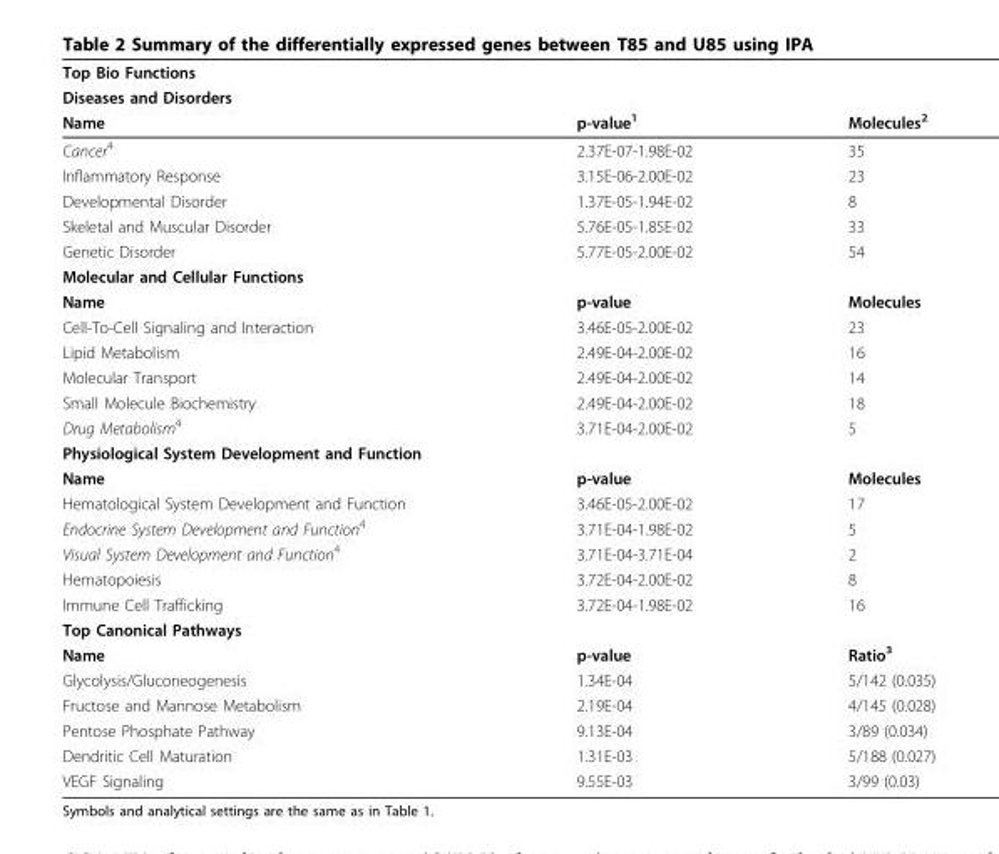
<table><thead><tr><td rowspan="3">Top Bio Functions Diseases and Disorders Name</td><td rowspan="3">p-value<sup>1</sup></td><td rowspan="3">Molecules<sup>2</sup></td></tr><tr></tr><tr></tr></thead><tbody><tr><td>Cancer<sup>4</sup></td><td>2.37E-07-1.98E-02</td><td>35</td></tr><tr><td>Inflammatory Response</td><td>3.15E-06-2.00E-02</td><td>23</td></tr><tr><td>Developmental Disorder</td><td>1.37E-05-1.94E-02</td><td>8</td></tr><tr><td>Skeletal and Muscular Disorder</td><td>5.76E-05-1.85E-02</td><td>33</td></tr><tr><td>Genetic Disorder</td><td>5.77E-05-2.00E-02</td><td>54</td></tr><tr><td colspan="3">Molecular and Cellular Functions</td></tr><tr><td>Name</td><td>p-value</td><td>Molecules</td></tr><tr><td>Cell-To-Cell Signaling and Interaction</td><td>3.46E-05-2.00E-02</td><td>23</td></tr><tr><td>Lipid Metabolism</td><td>2.49E-04-2.00E-02</td><td>16</td></tr><tr><td>Molecular Transport</td><td>2.49E-04-2.00E-02</td><td>14</td></tr><tr><td>Small Molecule Biochemistry</td><td>2.49E-04-2.00E-02</td><td>18</td></tr><tr><td>Drug Metabolism<sup>4</sup></td><td>3.71E-04-2.00E-02</td><td>5</td></tr><tr><td colspan="3">Physiological System Development and Function</td></tr><tr><td>Name</td><td>p-value</td><td>Molecules</td></tr><tr><td>Hematological System Development and Function</td><td>3.46E-05-2.00E-02</td><td>17</td></tr><tr><td>Endocrine System Development and Function<sup>4</sup></td><td>3.71E-04-1.98E-02</td><td>5</td></tr><tr><td>Visual System Development and Function<sup>4</sup></td><td>3.71E-04-3.71E-04</td><td>2</td></tr><tr><td>Hematopoiesis</td><td>3.72E-04-2.00E-02</td><td>8</td></tr><tr><td>Immune Cell Trafficking</td><td>3.72E-04-1.98E-02</td><td>16</td></tr><tr><td colspan="3">Top Canonical Pathways</td></tr><tr><td>Name</td><td>p-value</td><td>Ratio<sup>3</sup></td></tr><tr><td>Glycolysis/Gluconeogenesis</td><td>1.34E-04</td><td>5/142 (0.035)</td></tr><tr><td>Fructose and Mannose Metabolism</td><td>2.19E-04</td><td>4/145 (0.028)</td></tr><tr><td>Pentose Phosphate Pathway</td><td>9.13E-04</td><td>3/89 (0.034)</td></tr><tr><td>Dendritic Cell Maturation</td><td>1.31E-03</td><td>5/188 (0.027)</td></tr><tr><td>VEGF Signaling</td><td>9.55E-03</td><td>3/99 (0.03)</td></tr></tbody></table>